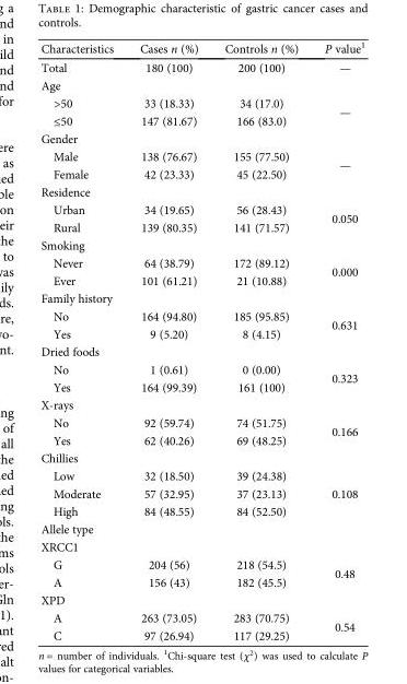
<table><thead><tr><td>Characteristics</td><td>Cases n (%)</td><td>Controls n (%)</td><td>P value<sup>1</sup></td></tr></thead><tbody><tr><td>Total</td><td>180 (100)</td><td>200 (100)</td><td>—</td></tr><tr><td colspan="4">Age</td></tr><tr><td>&gt;50</td><td>33 (18.33)</td><td>34 (17.0)</td><td rowspan="2">—</td></tr><tr><td>≤50</td><td>147 (81.67)</td><td>166 (83.0)</td></tr><tr><td colspan="4">Gender</td></tr><tr><td>Male</td><td>138 (76.67)</td><td>155 (77.50)</td><td rowspan="2">—</td></tr><tr><td>Female</td><td>42 (23.33)</td><td>45 (22.50)</td></tr><tr><td colspan="4">Residence</td></tr><tr><td>Urban</td><td>34 (19.65)</td><td>56 (28.43)</td><td rowspan="2">0.050</td></tr><tr><td>Rural</td><td>139 (80.35)</td><td>141 (71.57)</td></tr><tr><td colspan="4">Smoking</td></tr><tr><td>Never</td><td>64 (38.79)</td><td>172 (89.12)</td><td rowspan="2">0.000</td></tr><tr><td>Ever</td><td>101 (61.21)</td><td>21 (10.88)</td></tr><tr><td colspan="4">Family history</td></tr><tr><td>No</td><td>164 (94.80)</td><td>185 (95.85)</td><td rowspan="2">0.631</td></tr><tr><td>Yes</td><td>9 (5.20)</td><td>8 (4.15)</td></tr><tr><td colspan="4">Dried foods</td></tr><tr><td>No</td><td>1 (0.61)</td><td>0 (0.00)</td><td rowspan="2">0.323</td></tr><tr><td>Yes</td><td>164 (99.39)</td><td>161 (100)</td></tr><tr><td colspan="4">X-rays</td></tr><tr><td>No</td><td>92 (59.74)</td><td>74 (51.75)</td><td rowspan="2">0.166</td></tr><tr><td>Yes</td><td>62 (40.26)</td><td>69 (48.25)</td></tr><tr><td colspan="4">Chillies</td></tr><tr><td>Low</td><td>32 (18.50)</td><td>39 (24.38)</td><td rowspan="3">0.108</td></tr><tr><td>Moderate</td><td>57 (32.95)</td><td>37 (23.13)</td></tr><tr><td>High</td><td>84 (48.55)</td><td>84 (52.50)</td></tr><tr><td colspan="4">Allele type</td></tr><tr><td colspan="4">XRCC1</td></tr><tr><td>G</td><td>204 (56)</td><td>218 (54.5)</td><td rowspan="2">0.48</td></tr><tr><td>A</td><td>156 (43)</td><td>182 (45.5)</td></tr><tr><td colspan="4">XPD</td></tr><tr><td>A</td><td>263 (73.05)</td><td>283 (70.75)</td><td rowspan="2">0.54</td></tr><tr><td>C</td><td>97 (26.94)</td><td>117 (29.25)</td></tr></tbody></table>